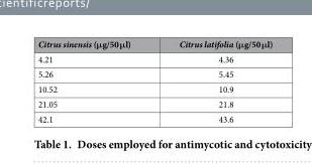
<table><thead><tr><td>Citrus sinensis (μg/50 μl)</td><td>Citrus latifolia (μg/50 μl)</td></tr></thead><tbody><tr><td>4.21</td><td>4.36</td></tr><tr><td>5.26</td><td>5.45</td></tr><tr><td>10.52</td><td>10.9</td></tr><tr><td>21.05</td><td>21.8</td></tr><tr><td>42.1</td><td>43.6</td></tr></tbody></table>